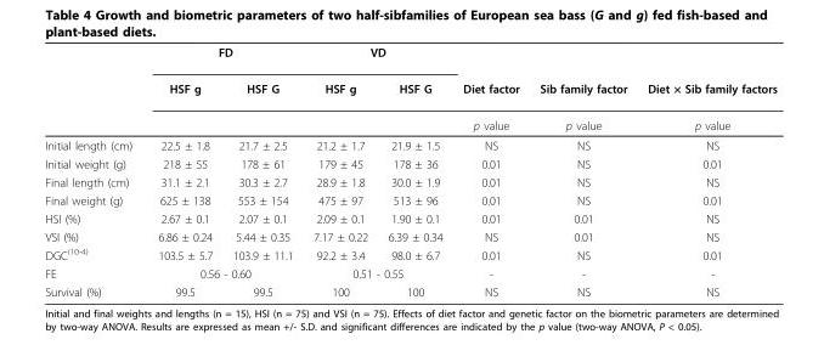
<table><thead><tr><td rowspan="3"></td><td colspan="2">FD</td><td colspan="2">VD</td><td rowspan="3">Diet factor p value</td><td rowspan="3">Sib family factor p value</td><td rowspan="3">Diet × Sib family factors p value</td></tr><tr><td rowspan="2">HSF g</td><td rowspan="2">HSF G</td><td rowspan="2">HSF g</td><td rowspan="2">HSF G</td></tr><tr></tr></thead><tbody><tr><td>Initial length (cm)</td><td>22.5 ± 1.8</td><td>21.7 ± 2.5</td><td>21.2 ± 1.7</td><td>21.9 ± 1.5</td><td>NS</td><td>NS</td><td>NS</td></tr><tr><td>Initial weight (g)</td><td>218 ± 55</td><td>178 ± 61</td><td>179 ± 45</td><td>178 ± 36</td><td>0.01</td><td>NS</td><td>0.01</td></tr><tr><td>Final length (cm)</td><td>31.1 ± 2.1</td><td>30.3 ± 2.7</td><td>28.9 ± 1.8</td><td>30.0 ± 1.9</td><td>0.01</td><td>NS</td><td>NS</td></tr><tr><td>Final weight (g)</td><td>625 ± 138</td><td>553 ± 154</td><td>475 ± 97</td><td>513 ± 96</td><td>0.01</td><td>NS</td><td>0.01</td></tr><tr><td>HSI (%)</td><td>2.67 ± 0.1</td><td>2.07 ± 0.1</td><td>2.09 ± 0.1</td><td>1.90 ± 0.1</td><td>0.01</td><td>0.01</td><td>NS</td></tr><tr><td>VSI (%)</td><td>6.86 ± 0.24</td><td>5.44 ± 0.35</td><td>7.17 ± 0.22</td><td>6.39 ± 0.34</td><td>NS</td><td>0.01</td><td>NS</td></tr><tr><td>DGC<sup>(10-4)</sup></td><td>103.5 ± 5.7</td><td>103.9 ± 11.1</td><td>92.2 ± 3.4</td><td>98.0 ± 6.7</td><td>0.01</td><td>NS</td><td>0.01</td></tr><tr><td>FE</td><td colspan="2">0.56 - 0.60</td><td colspan="2">0.51 - 0.55</td><td>-</td><td>-</td><td>-</td></tr><tr><td>Survival (%)</td><td>99.5</td><td>99.5</td><td>100</td><td>100</td><td>NS</td><td>NS</td><td>NS</td></tr></tbody></table>